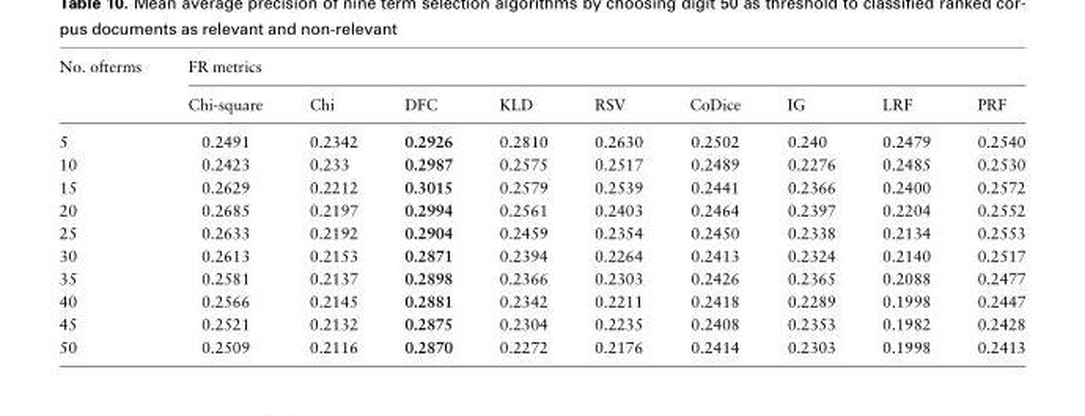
<table><thead><tr><td rowspan="2">No. ofterms</td><td colspan="9">FR metrics</td></tr><tr><td>Chi-square</td><td>Chi</td><td>DFC</td><td>KLD</td><td>RSV</td><td>CoDice</td><td>IG</td><td>LRF</td><td>PRF</td></tr></thead><tbody><tr><td>5</td><td>0.2491</td><td>0.2342</td><td>0.2926</td><td>0.2810</td><td>0.2630</td><td>0.2502</td><td>0.240</td><td>0.2479</td><td>0.2540</td></tr><tr><td>10</td><td>0.2423</td><td>0.233</td><td>0.2987</td><td>0.2575</td><td>0.2517</td><td>0.2489</td><td>0.2276</td><td>0.2485</td><td>0.2530</td></tr><tr><td>15</td><td>0.2629</td><td>0.2212</td><td>0.3015</td><td>0.2579</td><td>0.2539</td><td>0.2441</td><td>0.2366</td><td>0.2400</td><td>0.2572</td></tr><tr><td>20</td><td>0.2685</td><td>0.2197</td><td>0.2994</td><td>0.2561</td><td>0.2403</td><td>0.2464</td><td>0.2397</td><td>0.2204</td><td>0.2552</td></tr><tr><td>25</td><td>0.2633</td><td>0.2192</td><td>0.2904</td><td>0.2459</td><td>0.2354</td><td>0.2450</td><td>0.2338</td><td>0.2134</td><td>0.2553</td></tr><tr><td>30</td><td>0.2613</td><td>0.2153</td><td>0.2871</td><td>0.2394</td><td>0.2264</td><td>0.2413</td><td>0.2324</td><td>0.2140</td><td>0.2517</td></tr><tr><td>35</td><td>0.2581</td><td>0.2137</td><td>0.2898</td><td>0.2366</td><td>0.2303</td><td>0.2426</td><td>0.2365</td><td>0.2088</td><td>0.2477</td></tr><tr><td>40</td><td>0.2566</td><td>0.2145</td><td>0.2881</td><td>0.2342</td><td>0.2211</td><td>0.2418</td><td>0.2289</td><td>0.1998</td><td>0.2447</td></tr><tr><td>45</td><td>0.2521</td><td>0.2132</td><td>0.2875</td><td>0.2304</td><td>0.2235</td><td>0.2408</td><td>0.2353</td><td>0.1982</td><td>0.2428</td></tr><tr><td>50</td><td>0.2509</td><td>0.2116</td><td>0.2870</td><td>0.2272</td><td>0.2176</td><td>0.2414</td><td>0.2303</td><td>0.1998</td><td>0.2413</td></tr></tbody></table>